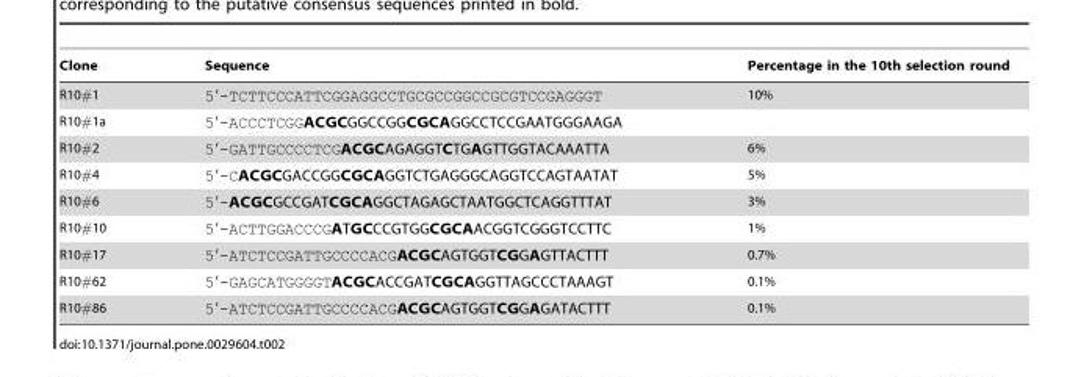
<table><thead><tr><td>Clone</td><td>Sequence</td><td>Percentage in the 10th selection round</td></tr></thead><tbody><tr><td>R10#1</td><td>5′-TCTTCCCATTCGGAGGCCTGCGCCGGCCGCGTCCGAGGGT</td><td>10%</td></tr><tr><td>R10#1a</td><td>5′-ACCCTCGGACGCGGCCGGCGCAGGCCTCCGAATGGGAAGA</td><td></td></tr><tr><td>R10#2</td><td>5′-GATTGCCCCTCGACGCAGAGGTCTGAGTTGGTACAAATTA</td><td>6%</td></tr><tr><td>R10#4</td><td>5′-CACGCGACCGGCGCAGGTCTGAGGGCAGGTCCAGTAATAT</td><td>5%</td></tr><tr><td>R10#6</td><td>5′-ACGCGCCGATCGCAGGCTAGAGCTAATGGCTCAGGTTTAT</td><td>3%</td></tr><tr><td>R10#10</td><td>5′-ACTTGGACCCGATGCCCGTGGCGCAACGGTCGGGTCCTTC</td><td>1%</td></tr><tr><td>R10#17</td><td>5′-ATCTCCGATTGCCCCACGACGCAGTGGTCGGAGTTACTTT</td><td>0.7%</td></tr><tr><td>R10#62</td><td>5′-GAGCATGGGGTACGCACCGATCGCAGGTTAGCCCTAAAGT</td><td>0.1%</td></tr><tr><td>R10#86</td><td>5′-ATCTCCGATTGCCCCACGACGCAGTGGTCGGAGATACTTT</td><td>0.1%</td></tr></tbody></table>